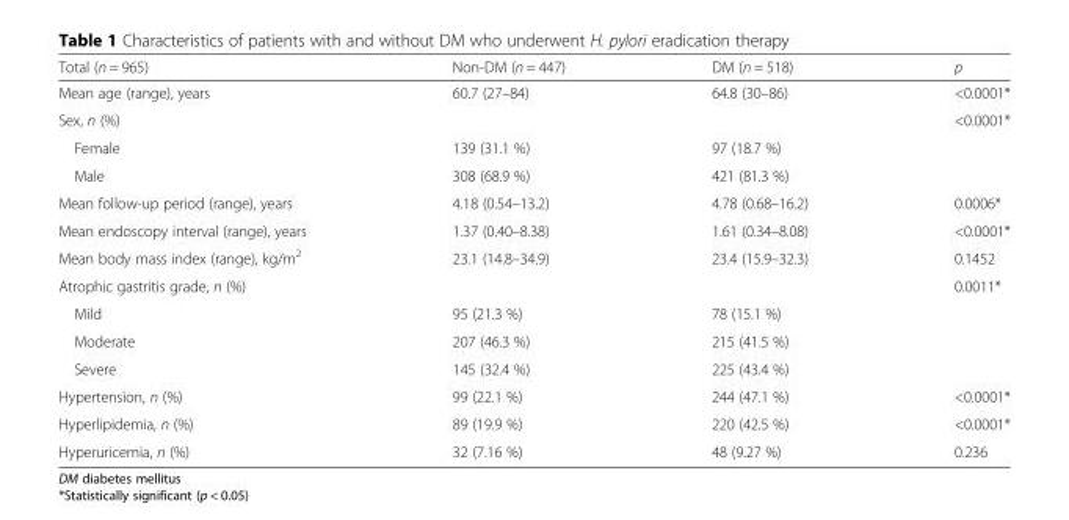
<table><thead><tr><td>Total (n = 965)</td><td>Non-DM (n = 447)</td><td>DM (n = 518)</td><td>p</td></tr></thead><tbody><tr><td>Mean age (range), years</td><td>60.7 (27–84)</td><td>64.8 (30–86)</td><td>&lt;0.0001*</td></tr><tr><td>Sex, n (%)</td><td></td><td></td><td>&lt;0.0001*</td></tr><tr><td>Female</td><td>139 (31.1 %)</td><td>97 (18.7 %)</td><td></td></tr><tr><td>Male</td><td>308 (68.9 %)</td><td>421 (81.3 %)</td><td></td></tr><tr><td>Mean follow-up period (range), years</td><td>4.18 (0.54–13.2)</td><td>4.78 (0.68–16.2)</td><td>0.0006*</td></tr><tr><td>Mean endoscopy interval (range), years</td><td>1.37 (0.40–8.38)</td><td>1.61 (0.34–8.08)</td><td>&lt;0.0001*</td></tr><tr><td>Mean body mass index (range), kg/m<sup>2</sup></td><td>23.1 (14.8–34.9)</td><td>23.4 (15.9–32.3)</td><td>0.1452</td></tr><tr><td>Atrophic gastritis grade, n (%)</td><td></td><td></td><td>0.0011*</td></tr><tr><td>Mild</td><td>95 (21.3 %)</td><td>78 (15.1 %)</td><td></td></tr><tr><td>Moderate</td><td>207 (46.3 %)</td><td>215 (41.5 %)</td><td></td></tr><tr><td>Severe</td><td>145 (32.4 %)</td><td>225 (43.4 %)</td><td></td></tr><tr><td>Hypertension, n (%)</td><td>99 (22.1 %)</td><td>244 (47.1 %)</td><td>&lt;0.0001*</td></tr><tr><td>Hyperlipidemia, n (%)</td><td>89 (19.9 %)</td><td>220 (42.5 %)</td><td>&lt;0.0001*</td></tr><tr><td>Hyperuricemia, n (%)</td><td>32 (7.16 %)</td><td>48 (9.27 %)</td><td>0.236</td></tr></tbody></table>